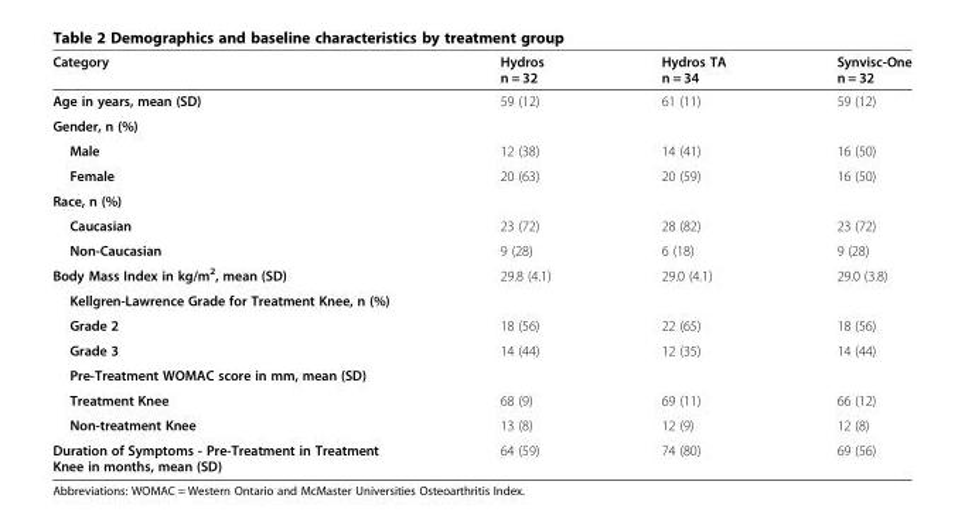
<table><thead><tr><td>Category</td><td>Hydros n = 32</td><td>Hydros TA n = 34</td><td>Synvisc-One n = 32</td></tr></thead><tbody><tr><td>Age in years, mean (SD)</td><td>59 (12)</td><td>61 (11)</td><td>59 (12)</td></tr><tr><td colspan="4">Gender, n (%)</td></tr><tr><td>Male</td><td>12 (38)</td><td>14 (41)</td><td>16 (50)</td></tr><tr><td>Female</td><td>20 (63)</td><td>20 (59)</td><td>16 (50)</td></tr><tr><td colspan="4">Race, n (%)</td></tr><tr><td>Caucasian</td><td>23 (72)</td><td>28 (82)</td><td>23 (72)</td></tr><tr><td>Non-Caucasian</td><td>9 (28)</td><td>6 (18)</td><td>9 (28)</td></tr><tr><td>Body Mass Index in kg/m<sup>2</sup>, mean (SD)</td><td>29.8 (4.1)</td><td>29.0 (4.1)</td><td>29.0 (3.8)</td></tr><tr><td colspan="4">Kellgren-Lawrence Grade for Treatment Knee, n (%)</td></tr><tr><td>Grade 2</td><td>18 (56)</td><td>22 (65)</td><td>18 (56)</td></tr><tr><td>Grade 3</td><td>14 (44)</td><td>12 (35)</td><td>14 (44)</td></tr><tr><td colspan="4">Pre-Treatment WOMAC score in mm, mean (SD)</td></tr><tr><td>Treatment Knee</td><td>68 (9)</td><td>69 (11)</td><td>66 (12)</td></tr><tr><td>Non-treatment Knee</td><td>13 (8)</td><td>12 (9)</td><td>12 (8)</td></tr><tr><td>Duration of Symptoms - Pre-Treatment in Treatment Knee in months, mean (SD)</td><td>64 (59)</td><td>74 (80)</td><td>69 (56)</td></tr></tbody></table>